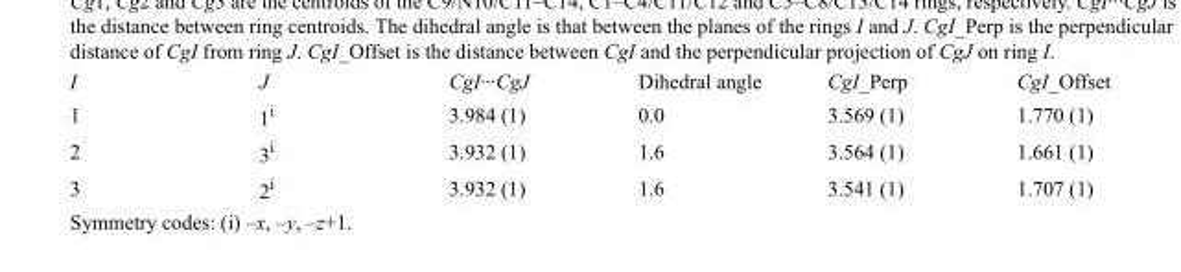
<table><tbody><tr><td>I</td><td>J</td><td>CgI···CgJ</td><td>Dihedral angle</td><td>CgI_Perp</td><td>CgI_Offset</td></tr><tr><td>1</td><td>1<sup>i</sup></td><td>3.984 (1)</td><td>0.0</td><td>3.569 (1)</td><td>1.770 (1)</td></tr><tr><td>2</td><td>3<sup>i</sup></td><td>3.932 (1)</td><td>1.6</td><td>3.564 (1)</td><td>1.661 (1)</td></tr><tr><td>3</td><td>2<sup>i</sup></td><td>3.932 (1)</td><td>1.6</td><td>3.541 (1)</td><td>1.707 (1)</td></tr></tbody></table>